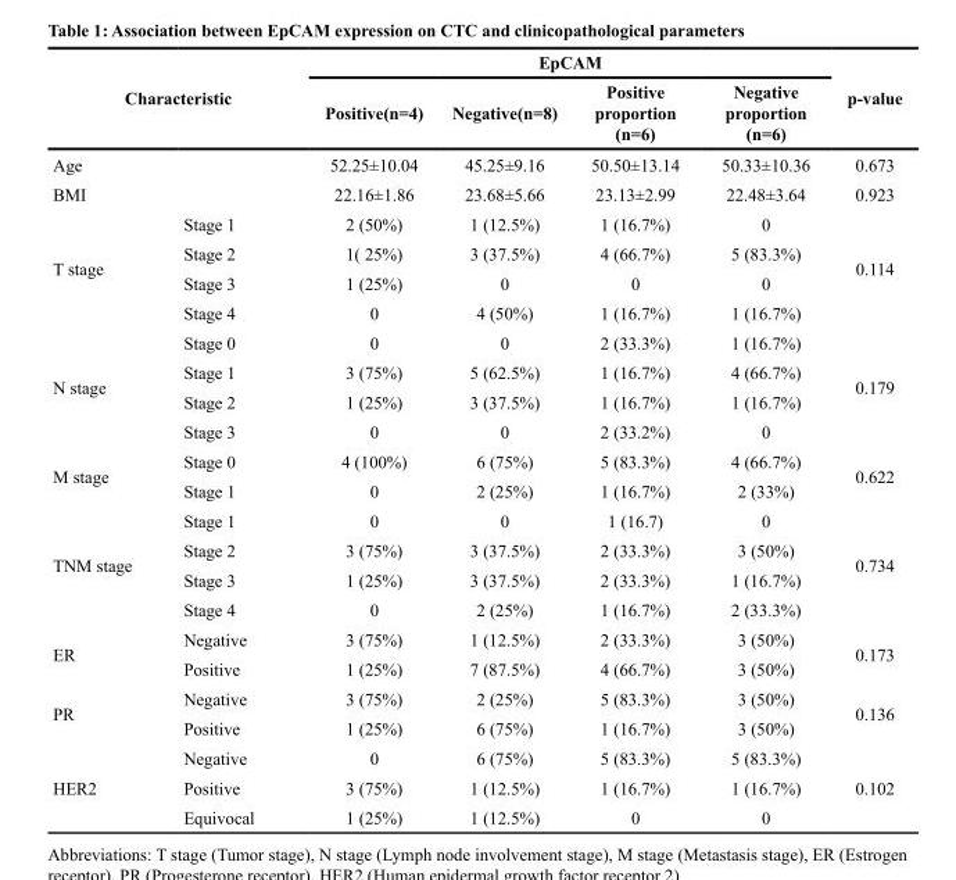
<table><thead><tr><td rowspan="2" colspan="2">Characteristic</td><td colspan="4">EpCAM</td><td rowspan="3">p-value 0.673</td></tr><tr><td rowspan="2">Positive(n=4) 52.25±10.04</td><td rowspan="2">Negative(n=8) 45.25±9.16</td><td rowspan="2">Positive proportion (n=6) 50.50±13.14</td><td rowspan="2">Negative proportion (n=6) 50.33±10.36</td></tr><tr><td>Age</td><td></td></tr></thead><tbody><tr><td>BMI</td><td></td><td>22.16±1.86</td><td>23.68±5.66</td><td>23.13±2.99</td><td>22.48±3.64</td><td>0.923</td></tr><tr><td rowspan="4">T stage</td><td>Stage 1</td><td>2 (50%)</td><td>1 (12.5%)</td><td>1 (16.7%)</td><td>0</td><td rowspan="4">0.114</td></tr><tr><td>Stage 2</td><td>1( 25%)</td><td>3 (37.5%)</td><td>4 (66.7%)</td><td>5 (83.3%)</td></tr><tr><td>Stage 3</td><td>1 (25%)</td><td>0</td><td>0</td><td>0</td></tr><tr><td>Stage 4</td><td>0</td><td>4 (50%)</td><td>1 (16.7%)</td><td>1 (16.7%)</td></tr><tr><td rowspan="4">N stage</td><td>Stage 0</td><td>0</td><td>0</td><td>2 (33.3%)</td><td>1 (16.7%)</td><td rowspan="4">0.179</td></tr><tr><td>Stage 1</td><td>3 (75%)</td><td>5 (62.5%)</td><td>1 (16.7%)</td><td>4 (66.7%)</td></tr><tr><td>Stage 2</td><td>1 (25%)</td><td>3 (37.5%)</td><td>1 (16.7%)</td><td>1 (16.7%)</td></tr><tr><td>Stage 3</td><td>0</td><td>0</td><td>2 (33.2%)</td><td>0</td></tr><tr><td rowspan="2">M stage</td><td>Stage 0</td><td>4 (100%)</td><td>6 (75%)</td><td>5 (83.3%)</td><td>4 (66.7%)</td><td rowspan="2">0.622</td></tr><tr><td>Stage 1</td><td>0</td><td>2 (25%)</td><td>1 (16.7%)</td><td>2 (33%)</td></tr><tr><td rowspan="4">TNM stage</td><td>Stage 1</td><td>0</td><td>0</td><td>1 (16.7)</td><td>0</td><td rowspan="4">0.734</td></tr><tr><td>Stage 2</td><td>3 (75%)</td><td>3 (37.5%)</td><td>2 (33.3%)</td><td>3 (50%)</td></tr><tr><td>Stage 3</td><td>1 (25%)</td><td>3 (37.5%)</td><td>2 (33.3%)</td><td>1 (16.7%)</td></tr><tr><td>Stage 4</td><td>0</td><td>2 (25%)</td><td>1 (16.7%)</td><td>2 (33.3%)</td></tr><tr><td rowspan="2">ER</td><td>Negative</td><td>3 (75%)</td><td>1 (12.5%)</td><td>2 (33.3%)</td><td>3 (50%)</td><td rowspan="2">0.173</td></tr><tr><td>Positive</td><td>1 (25%)</td><td>7 (87.5%)</td><td>4 (66.7%)</td><td>3 (50%)</td></tr><tr><td rowspan="2">PR</td><td>Negative</td><td>3 (75%)</td><td>2 (25%)</td><td>5 (83.3%)</td><td>3 (50%)</td><td rowspan="2">0.136</td></tr><tr><td>Positive</td><td>1 (25%)</td><td>6 (75%)</td><td>1 (16.7%)</td><td>3 (50%)</td></tr><tr><td rowspan="3">HER2</td><td>Negative</td><td>0</td><td>6 (75%)</td><td>5 (83.3%)</td><td>5 (83.3%)</td><td rowspan="3">0.102</td></tr><tr><td>Positive</td><td>3 (75%)</td><td>1 (12.5%)</td><td>1 (16.7%)</td><td>1 (16.7%)</td></tr><tr><td>Equivocal</td><td>1 (25%)</td><td>1 (12.5%)</td><td>0</td><td>0</td></tr></tbody></table>